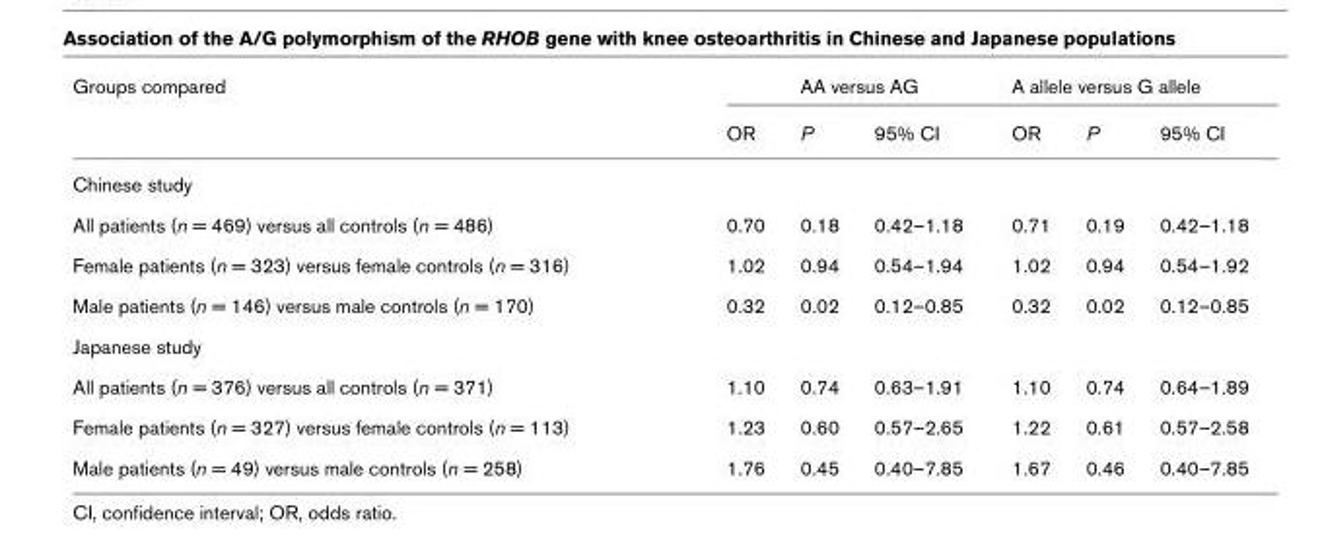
<table><thead><tr><td rowspan="2">Groups compared</td><td colspan="3">AA versus AG</td><td colspan="3">A allele versus G allele</td></tr><tr><td>OR</td><td>P</td><td>95% CI</td><td>OR</td><td>P</td><td>95% CI</td></tr></thead><tbody><tr><td colspan="7">Chinese study</td></tr><tr><td>All patients (n = 469) versus all controls (n = 486)</td><td>0.70</td><td>0.18</td><td>0.42–1.18</td><td>0.71</td><td>0.19</td><td>0.42–1.18</td></tr><tr><td>Female patients (n = 323) versus female controls (n = 316)</td><td>1.02</td><td>0.94</td><td>0.54–1.94</td><td>1.02</td><td>0.94</td><td>0.54–1.92</td></tr><tr><td>Male patients (n = 146) versus male controls (n = 170)</td><td>0.32</td><td>0.02</td><td>0.12–0.85</td><td>0.32</td><td>0.02</td><td>0.12–0.85</td></tr><tr><td colspan="7">Japanese study</td></tr><tr><td>All patients (n = 376) versus all controls (n = 371)</td><td>1.10</td><td>0.74</td><td>0.63–1.91</td><td>1.10</td><td>0.74</td><td>0.64–1.89</td></tr><tr><td>Female patients (n = 327) versus female controls (n = 113)</td><td>1.23</td><td>0.60</td><td>0.57–2.65</td><td>1.22</td><td>0.61</td><td>0.57–2.58</td></tr><tr><td>Male patients (n = 49) versus male controls (n = 258)</td><td>1.76</td><td>0.45</td><td>0.40–7.85</td><td>1.67</td><td>0.46</td><td>0.40–7.85</td></tr></tbody></table>